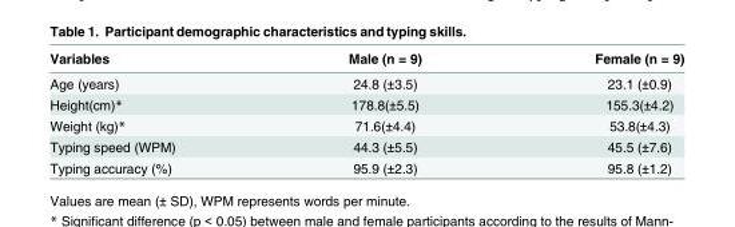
<table><thead><tr><td>Variables</td><td>Male (n = 9)</td><td>Female (n = 9)</td></tr></thead><tbody><tr><td>Age (years)</td><td>24.8 (±3.5)</td><td>23.1 (±0.9)</td></tr><tr><td>Height(cm)*</td><td>178.8(±5.5)</td><td>155.3(±4.2)</td></tr><tr><td>Weight (kg)*</td><td>71.6(±4.4)</td><td>53.8(±4.3)</td></tr><tr><td>Typing speed (WPM)</td><td>44.3 (±5.5)</td><td>45.5 (±7.6)</td></tr><tr><td>Typing accuracy (%)</td><td>95.9 (±2.3)</td><td>95.8 (±1.2)</td></tr></tbody></table>